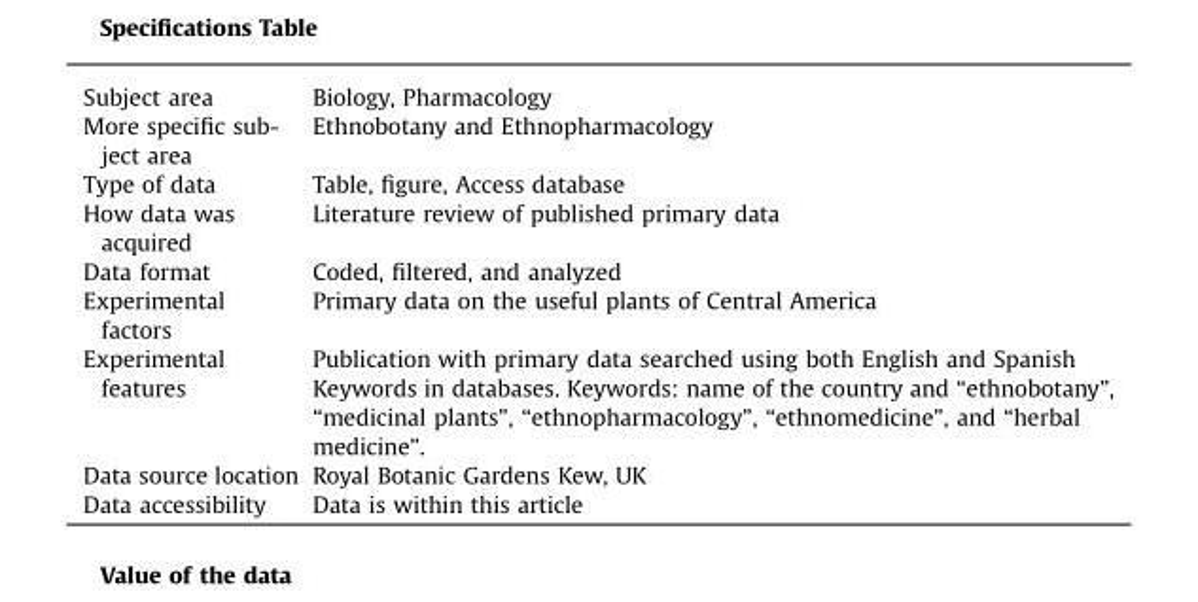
<table><tbody><tr><td>Subject area</td><td>Biology, Pharmacology</td></tr><tr><td>More specific sub- ject area</td><td>Ethnobotany and Ethnopharmacology</td></tr><tr><td>Type of data</td><td>Table, figure, Access database</td></tr><tr><td>How data was acquired</td><td>Literature review of published primary data</td></tr><tr><td>Data format</td><td>Coded, filtered, and analyzed</td></tr><tr><td>Experimental factors</td><td>Primary data on the useful plants of Central America</td></tr><tr><td>Experimental features</td><td>Publication with primary data searched using both English and Spanish Keywords in databases. Keywords: name of the country and “ethnobotany”, “medicinal plants”, “ethnopharmacology”, “ethnomedicine”, and “herbal medicine”.</td></tr><tr><td>Data source location</td><td>Royal Botanic Gardens Kew, UK</td></tr><tr><td>Data accessibility</td><td>Data is within this article</td></tr></tbody></table>